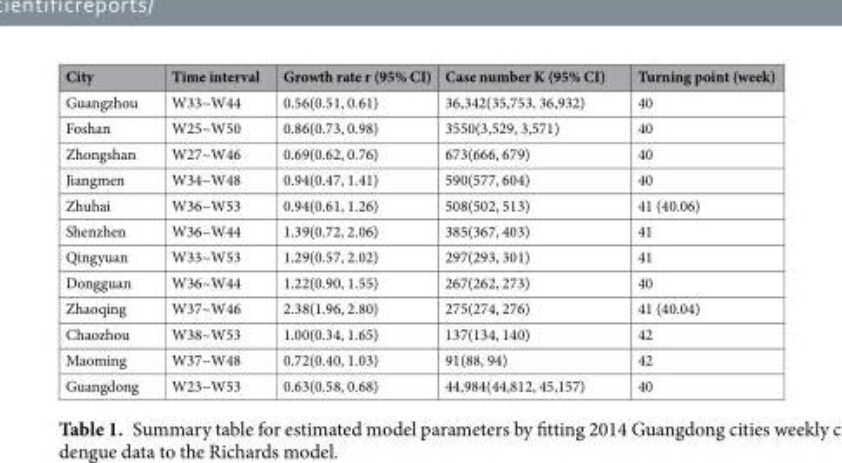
<table><thead><tr><td>City</td><td>Time interval</td><td>Growth rate r (95% CI)</td><td>Case number K (95% CI)</td><td>Turning point (week)</td></tr></thead><tbody><tr><td>Guangzhou</td><td>W33~W44</td><td>0.56(0.51, 0.61)</td><td>36,342(35,753, 36,932)</td><td>40</td></tr><tr><td>Foshan</td><td>W25~W50</td><td>0.86(0.73, 0.98)</td><td>3550(3,529, 3,571)</td><td>40</td></tr><tr><td>Zhongshan</td><td>W27~W46</td><td>0.69(0.62, 0.76)</td><td>673(666, 679)</td><td>40</td></tr><tr><td>Jiangmen</td><td>W34~W48</td><td>0.94(0.47, 1.41)</td><td>590(577, 604)</td><td>40</td></tr><tr><td>Zhuhai</td><td>W36~W53</td><td>0.94(0.61, 1.26)</td><td>508(502, 513)</td><td>41 (40.06)</td></tr><tr><td>Shenzhen</td><td>W36~W44</td><td>1.39(0.72, 2.06)</td><td>385(367, 403)</td><td>41</td></tr><tr><td>Qingyuan</td><td>W33~W53</td><td>1.29(0.57, 2.02)</td><td>297(293, 301)</td><td>41</td></tr><tr><td>Dongguan</td><td>W36~W44</td><td>1.22(0.90, 1.55)</td><td>267(262, 273)</td><td>40</td></tr><tr><td>Zhaoqing</td><td>W37~W46</td><td>2.38(1.96, 2.80)</td><td>275(274, 276)</td><td>41 (40.04)</td></tr><tr><td>Chaozhou</td><td>W38~W53</td><td>1.00(0.34, 1.65)</td><td>137(134, 140)</td><td>42</td></tr><tr><td>Maoming</td><td>W37~W48</td><td>0.72(0.40, 1.03)</td><td>91(88, 94)</td><td>42</td></tr><tr><td>Guangdong</td><td>W23~W53</td><td>0.63(0.58, 0.68)</td><td>44,984(44,812, 45,157)</td><td>40</td></tr></tbody></table>